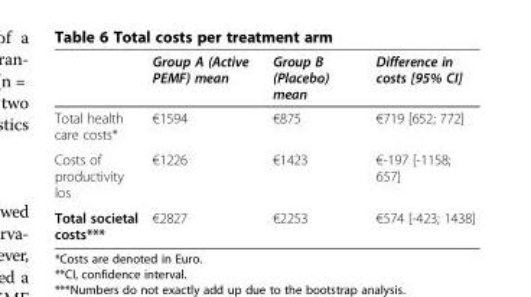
<table><thead><tr><td></td><td>Group A (Active PEMF) mean</td><td>Group B (Placebo) mean</td><td>Difference in costs [95% CI]</td></tr></thead><tbody><tr><td>Total health care costs*</td><td>€1594</td><td>€875</td><td>€719 [652; 772]</td></tr><tr><td>Costs of productivity los</td><td>€1226</td><td>€1423</td><td>€-197 [-1158; 657]</td></tr><tr><td>Total societal costs***</td><td>€2827</td><td>€2253</td><td>€574 [-423; 1438]</td></tr></tbody></table>